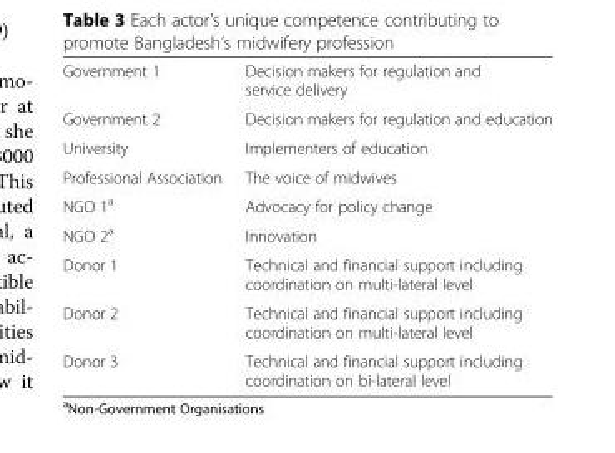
<table><tbody><tr><td>Government 1</td><td>Decision makers for regulation and service delivery</td></tr><tr><td>Government 2</td><td>Decision makers for regulation and education</td></tr><tr><td>University</td><td>Implementers of education</td></tr><tr><td>Professional Association</td><td>The voice of midwives</td></tr><tr><td>NGO 1<sup>a</sup></td><td>Advocacy for policy change</td></tr><tr><td>NGO 2<sup>a</sup></td><td>Innovation</td></tr><tr><td>Donor 1</td><td>Technical and financial support including coordination on multi-lateral level</td></tr><tr><td>Donor 2</td><td>Technical and financial support including coordination on multi-lateral level</td></tr><tr><td>Donor 3</td><td>Technical and financial support including coordination on bi-lateral level</td></tr></tbody></table>